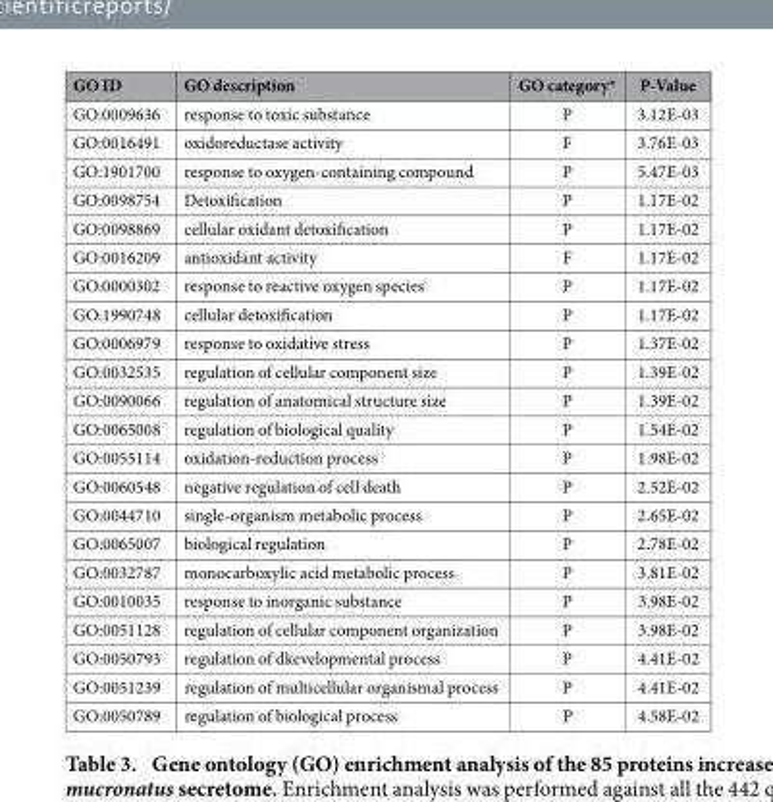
<table><thead><tr><td>GO ID</td><td>GO description</td><td>GO category*</td><td>P-Value</td></tr></thead><tbody><tr><td>GO:0009636</td><td>response to toxic substance</td><td>P</td><td>3.12E-03</td></tr><tr><td>GO:0016491</td><td>oxidoreductase activity</td><td>F</td><td>3.76E-03</td></tr><tr><td>GO:1901700</td><td>response to oxygen-containing compound</td><td>P</td><td>5.47E-03</td></tr><tr><td>GO:0098754</td><td>Detoxification</td><td>P</td><td>1.17E-02</td></tr><tr><td>GO:0098869</td><td>cellular oxidant detoxification</td><td>P</td><td>1.17E-02</td></tr><tr><td>GO:0016209</td><td>antioxidant activity</td><td>F</td><td>1.17E-02</td></tr><tr><td>GO:0000302</td><td>response to reactive oxygen species</td><td>P</td><td>1.17E-02</td></tr><tr><td>GO:1990748</td><td>cellular detoxification</td><td>P</td><td>1.17E-02</td></tr><tr><td>GO:0006979</td><td>response to oxidative stress</td><td>P</td><td>1.37E-02</td></tr><tr><td>GO:0032535</td><td>regulation of cellular component size</td><td>P</td><td>1.39E-02</td></tr><tr><td>GO:0090066</td><td>regulation of anatomical structure size</td><td>P</td><td>1.39E-02</td></tr><tr><td>GO:0065008</td><td>regulation of biological quality</td><td>P</td><td>1.54E-02</td></tr><tr><td>GO:0055114</td><td>oxidation-reduction process</td><td>P</td><td>1.98E-02</td></tr><tr><td>GO:0060548</td><td>negative regulation of cell death</td><td>P</td><td>2.52E-02</td></tr><tr><td>GO:0044710</td><td>single-organism metabolic process</td><td>P</td><td>2.65E-02</td></tr><tr><td>GO:0065007</td><td>biological regulation</td><td>P</td><td>2.78E-02</td></tr><tr><td>GO:0032787</td><td>monocarboxylic acid metabolic process</td><td>P</td><td>3.81E-02</td></tr><tr><td>GO:0010035</td><td>response to inorganic substance</td><td>P</td><td>3.98E-02</td></tr><tr><td>GO:0051128</td><td>regulation of cellular component organization</td><td>P</td><td>3.98E-02</td></tr><tr><td>GO:0050793</td><td>regulation of dkevelopmental process</td><td>P</td><td>4.41E-02</td></tr><tr><td>GO:0051239</td><td>regulation of multicellular organismal process</td><td>P</td><td>4.41E-02</td></tr><tr><td>GO:0050789</td><td>regulation of biological process</td><td>P</td><td>4.58E-02</td></tr></tbody></table>